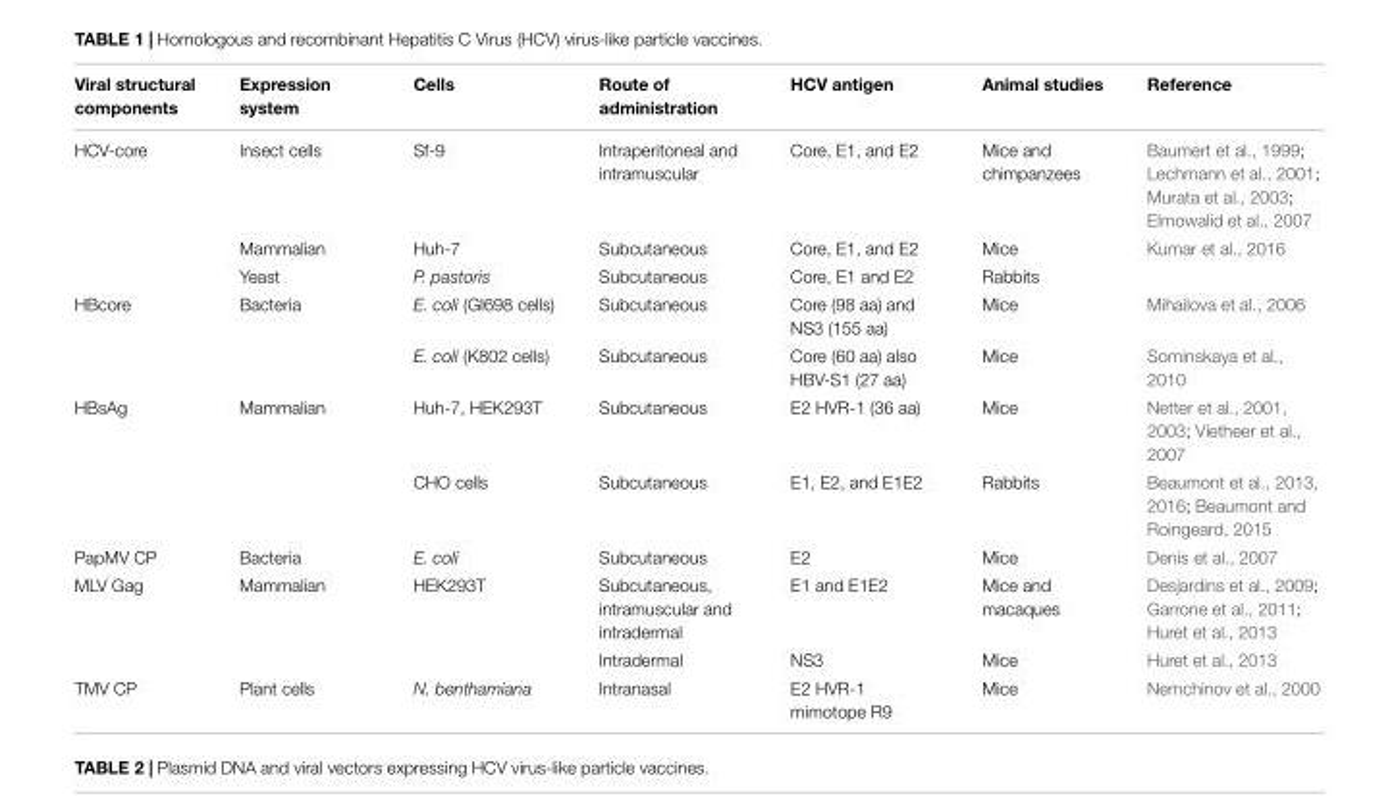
<table><thead><tr><td>Viral structural components</td><td>Expression system</td><td>Cells</td><td>Route of administration</td><td>HCV antigen</td><td>Animal studies</td><td>Reference</td></tr></thead><tbody><tr><td rowspan="3">HCV-core</td><td>Insect cells</td><td>Sf-9</td><td>Intraperitoneal and intramuscular</td><td>Core, E1, and E2</td><td>Mice and chimpanzees</td><td>Baumert et al., 1999; Lechmann et al., 2001; Murata et al., 2003; Elmowalid et al., 2007</td></tr><tr><td>Mammalian</td><td>Huh-7</td><td>Subcutaneous</td><td>Core, E1, and E2</td><td>Mice</td><td>Kumar et al., 2016</td></tr><tr><td>Yeast</td><td>P. pastoris</td><td>Subcutaneous</td><td>Core, E1 and E2</td><td>Rabbits</td><td></td></tr><tr><td rowspan="2">HBcore</td><td>Bacteria</td><td>E. coli (GI698 cells)</td><td>Subcutaneous</td><td>Core (98 aa) and NS3 (155 aa)</td><td>Mice</td><td>Mihailova et al., 2006</td></tr><tr><td></td><td>E. coli (K802 cells)</td><td>Subcutaneous</td><td>Core (60 aa) also HBV-S1 (27 aa)</td><td>Mice</td><td>Sominskaya et al., 2010</td></tr><tr><td rowspan="2">HBsAg</td><td>Mammalian</td><td>Huh-7, HEK293T</td><td>Subcutaneous</td><td>E2 HVR-1 (36 aa)</td><td>Mice</td><td>Netter et al., 2001, 2003; Vietheer et al., 2007</td></tr><tr><td></td><td>CHO cells</td><td>Subcutaneous</td><td>E1, E2, and E1E2</td><td>Rabbits</td><td>Beaumont et al., 2013, 2016; Beaumont and Roingeard, 2015</td></tr><tr><td>PapMV CP</td><td>Bacteria</td><td>E. coli</td><td>Subcutaneous</td><td>E2</td><td>Mice</td><td>Denis et al., 2007</td></tr><tr><td rowspan="2">MLV Gag</td><td>Mammalian</td><td>HEK293T</td><td>Subcutaneous, intramuscular and intradermal</td><td>E1 and E1E2</td><td>Mice and macaques</td><td>Desjardins et al., 2009; Garrone et al., 2011; Huret et al., 2013</td></tr><tr><td></td><td></td><td>Intradermal</td><td>NS3</td><td>Mice</td><td>Huret et al., 2013</td></tr><tr><td>TMV CP</td><td>Plant cells</td><td>N. benthamiana</td><td>Intranasal</td><td>E2 HVR-1 mimotope R9</td><td>Mice</td><td>Nemchinov et al., 2000</td></tr></tbody></table>